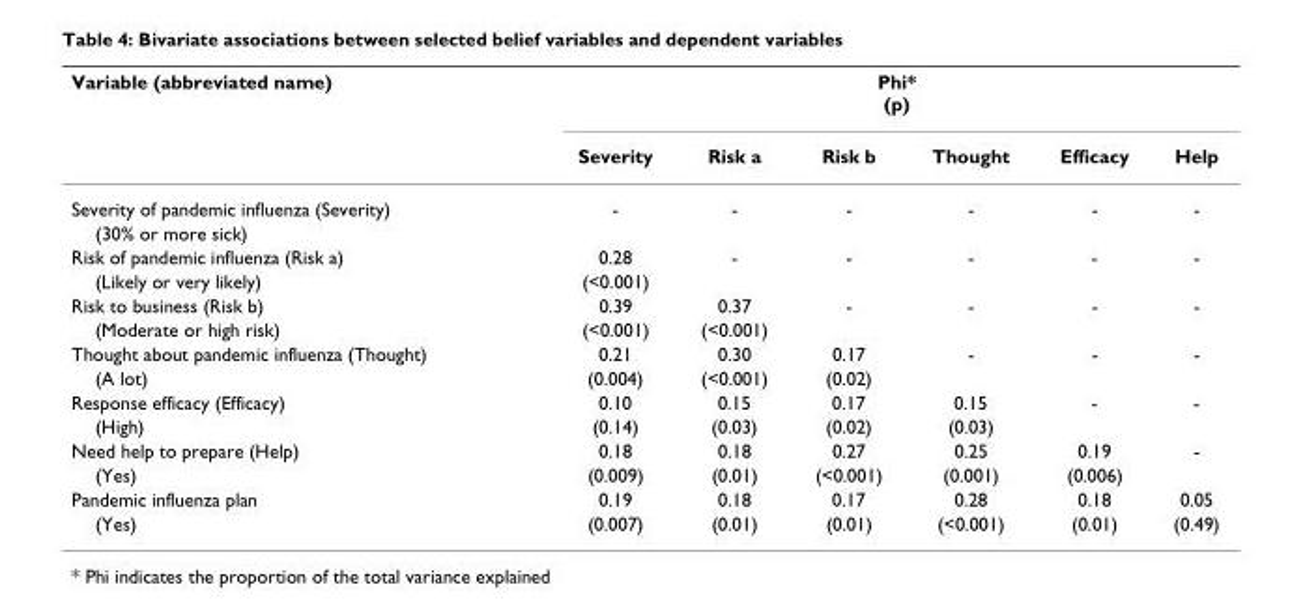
<table><thead><tr><td rowspan="2">Variable (abbreviated name)</td><td colspan="6">Phi* (p)</td></tr><tr><td>Severity</td><td>Risk a</td><td>Risk b</td><td>Thought</td><td>Efficacy</td><td>Help</td></tr></thead><tbody><tr><td>Severity of pandemic influenza (Severity)</td><td>-</td><td>-</td><td>-</td><td>-</td><td>-</td><td>-</td></tr><tr><td colspan="7">(30% or more sick)</td></tr><tr><td>Risk of pandemic influenza (Risk a)</td><td>0.28</td><td>-</td><td>-</td><td>-</td><td>-</td><td>-</td></tr><tr><td>(Likely or very likely)</td><td>(&lt;0.001)</td><td></td><td></td><td></td><td></td><td></td></tr><tr><td>Risk to business (Risk b)</td><td>0.39</td><td>0.37</td><td>-</td><td>-</td><td>-</td><td>-</td></tr><tr><td>(Moderate or high risk)</td><td>(&lt;0.001)</td><td>(&lt;0.001)</td><td></td><td></td><td></td><td></td></tr><tr><td>Thought about pandemic influenza (Thought)</td><td>0.21</td><td>0.30</td><td>0.17</td><td>-</td><td>-</td><td>-</td></tr><tr><td>(A lot)</td><td>(0.004)</td><td>(&lt;0.001)</td><td>(0.02)</td><td></td><td></td><td></td></tr><tr><td>Response efficacy (Efficacy)</td><td>0.10</td><td>0.15</td><td>0.17</td><td>0.15</td><td>-</td><td>-</td></tr><tr><td>(High)</td><td>(0.14)</td><td>(0.03)</td><td>(0.02)</td><td>(0.03)</td><td></td><td></td></tr><tr><td>Need help to prepare (Help)</td><td>0.18</td><td>0.18</td><td>0.27</td><td>0.25</td><td>0.19</td><td>-</td></tr><tr><td>(Yes)</td><td>(0.009)</td><td>(0.01)</td><td>(&lt;0.001)</td><td>(0.001)</td><td>(0.006)</td><td></td></tr><tr><td>Pandemic influenza plan</td><td>0.19</td><td>0.18</td><td>0.17</td><td>0.28</td><td>0.18</td><td>0.05</td></tr><tr><td>(Yes)</td><td>(0.007)</td><td>(0.01)</td><td>(0.01)</td><td>(&lt;0.001)</td><td>(0.01)</td><td>(0.49)</td></tr></tbody></table>